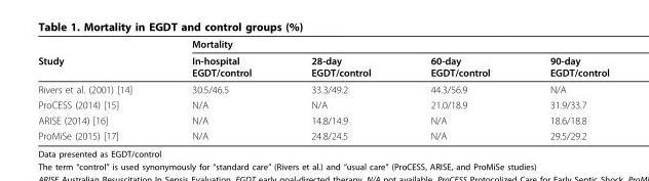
<table><thead><tr><td rowspan="2">Study</td><td colspan="4">Mortality</td></tr><tr><td>In-hospital EGDT/control</td><td>28-day EGDT/control</td><td>60-day EGDT/control</td><td>90-day EGDT/control</td></tr></thead><tbody><tr><td>Rivers et al. (2001) [14]</td><td>30.5/46.5</td><td>33.3/49.2</td><td>44.3/56.9</td><td>N/A</td></tr><tr><td>ProCESS (2014) [15]</td><td>N/A</td><td>N/A</td><td>21.0/18.9</td><td>31.9/33.7</td></tr><tr><td>ARISE (2014) [16]</td><td>N/A</td><td>14.8/14.9</td><td>N/A</td><td>18.6/18.8</td></tr><tr><td>ProMiSe (2015) [17]</td><td>N/A</td><td>24.8/24.5</td><td>N/A</td><td>29.5/29.2</td></tr></tbody></table>